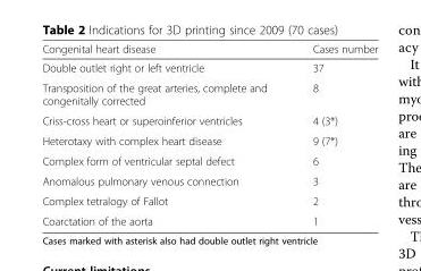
<table><thead><tr><td>Congenital heart disease</td><td>Cases number</td></tr></thead><tbody><tr><td>Double outlet right or left ventricle</td><td>37</td></tr><tr><td>Transposition of the great arteries, complete and congenitally corrected</td><td>8</td></tr><tr><td>Criss-cross heart or superoinferior ventricles</td><td>4 (3*)</td></tr><tr><td>Heterotaxy with complex heart disease</td><td>9 (7*)</td></tr><tr><td>Complex form of ventricular septal defect</td><td>6</td></tr><tr><td>Anomalous pulmonary venous connection</td><td>3</td></tr><tr><td>Complex tetralogy of Fallot</td><td>2</td></tr><tr><td>Coarctation of the aorta</td><td>1</td></tr></tbody></table>